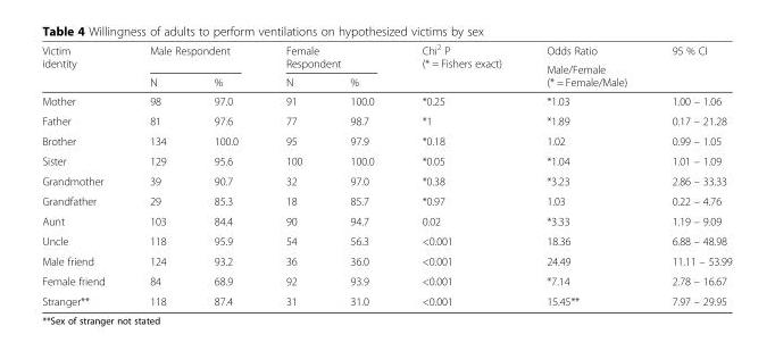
<table><thead><tr><td rowspan="3">Victim identity</td><td rowspan="2" colspan="2">Male Respondent</td><td rowspan="2" colspan="2">Female Respondent</td><td rowspan="3">Chi<sup>2</sup> P (* = Fishers exact)</td><td rowspan="3">Odds Ratio Male/Female (* = Female/Male)</td><td rowspan="3">95 % CI</td></tr><tr></tr><tr><td>N</td><td>%</td><td>N</td><td>%</td></tr></thead><tbody><tr><td>Mother</td><td>98</td><td>97.0</td><td>91</td><td>100.0</td><td>*0.25</td><td>*1.03</td><td>1.00 – 1.06</td></tr><tr><td>Father</td><td>81</td><td>97.6</td><td>77</td><td>98.7</td><td>*1</td><td>*1.89</td><td>0.17 – 21.28</td></tr><tr><td>Brother</td><td>134</td><td>100.0</td><td>95</td><td>97.9</td><td>*0.18</td><td>1.02</td><td>0.99 – 1.05</td></tr><tr><td>Sister</td><td>129</td><td>95.6</td><td>100</td><td>100.0</td><td>*0.05</td><td>*1.04</td><td>1.01 – 1.09</td></tr><tr><td>Grandmother</td><td>39</td><td>90.7</td><td>32</td><td>97.0</td><td>*0.38</td><td>*3.23</td><td>2.86 – 33.33</td></tr><tr><td>Grandfather</td><td>29</td><td>85.3</td><td>18</td><td>85.7</td><td>*0.97</td><td>1.03</td><td>0.22 – 4.76</td></tr><tr><td>Aunt</td><td>103</td><td>84.4</td><td>90</td><td>94.7</td><td>0.02</td><td>*3.33</td><td>1.19 – 9.09</td></tr><tr><td>Uncle</td><td>118</td><td>95.9</td><td>54</td><td>56.3</td><td>&lt;0.001</td><td>18.36</td><td>6.88 – 48.98</td></tr><tr><td>Male friend</td><td>124</td><td>93.2</td><td>36</td><td>36.0</td><td>&lt;0.001</td><td>24.49</td><td>11.11 – 53.99</td></tr><tr><td>Female friend</td><td>84</td><td>68.9</td><td>92</td><td>93.9</td><td>&lt;0.001</td><td>*7.14</td><td>2.78 – 16.67</td></tr><tr><td>Stranger**</td><td>118</td><td>87.4</td><td>31</td><td>31.0</td><td>&lt;0.001</td><td>15.45**</td><td>7.97 – 29.95</td></tr></tbody></table>